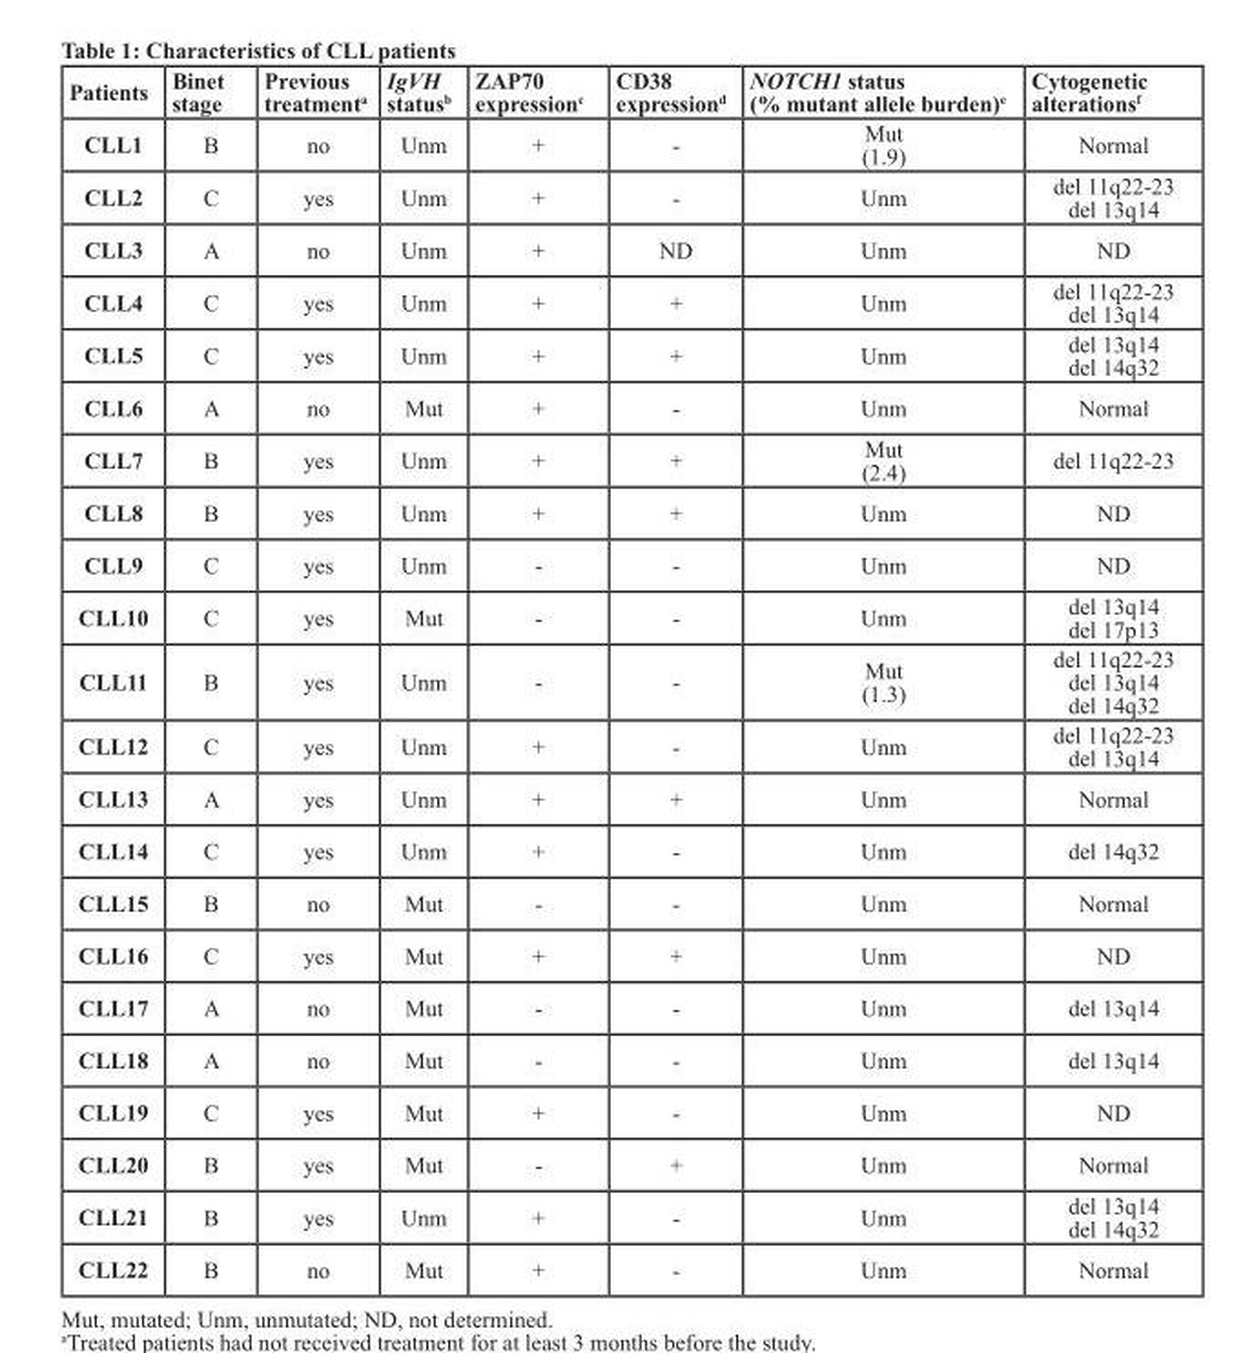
<table><thead><tr><td>Patients</td><td>Binet stage</td><td>Previous treatment<sup>a</sup></td><td>IgVH status<sup>b</sup></td><td>ZAP70 expression<sup>c</sup></td><td>CD38 expression<sup>d</sup></td><td>NOTCH1 status (% mutant allele burden)<sup>e</sup></td><td>Cytogenetic alterations<sup>f</sup></td></tr></thead><tbody><tr><td>CLL1</td><td>B</td><td>no</td><td>Unm</td><td>+</td><td>-</td><td>Mut (1.9)</td><td>Normal</td></tr><tr><td>CLL2</td><td>C</td><td>yes</td><td>Unm</td><td>+</td><td>-</td><td>Unm</td><td>del 11q22-23 del 13q14</td></tr><tr><td>CLL3</td><td>A</td><td>no</td><td>Unm</td><td>+</td><td>ND</td><td>Unm</td><td>ND</td></tr><tr><td>CLL4</td><td>C</td><td>yes</td><td>Unm</td><td>+</td><td>+</td><td>Unm</td><td>del 11q22-23 del 13q14</td></tr><tr><td>CLL5</td><td>C</td><td>yes</td><td>Unm</td><td>+</td><td>+</td><td>Unm</td><td>del 13q14 del 14q32</td></tr><tr><td>CLL6</td><td>A</td><td>no</td><td>Mut</td><td>+</td><td>-</td><td>Unm</td><td>Normal</td></tr><tr><td>CLL7</td><td>B</td><td>yes</td><td>Unm</td><td>+</td><td>+</td><td>Mut (2.4)</td><td>del 11q22-23</td></tr><tr><td>CLL8</td><td>B</td><td>yes</td><td>Unm</td><td>+</td><td>+</td><td>Unm</td><td>ND</td></tr><tr><td>CLL9</td><td>C</td><td>yes</td><td>Unm</td><td>-</td><td>-</td><td>Unm</td><td>ND</td></tr><tr><td>CLL10</td><td>C</td><td>yes</td><td>Mut</td><td>-</td><td>-</td><td>Unm</td><td>del 13q14 del 17p13</td></tr><tr><td>CLL11</td><td>B</td><td>yes</td><td>Unm</td><td>-</td><td>-</td><td>Mut (1.3)</td><td>del 11q22-23 del 13q14 del 14q32</td></tr><tr><td>CLL12</td><td>C</td><td>yes</td><td>Unm</td><td>+</td><td>-</td><td>Unm</td><td>del 11q22-23 del 13q14</td></tr><tr><td>CLL13</td><td>A</td><td>yes</td><td>Unm</td><td>+</td><td>+</td><td>Unm</td><td>Normal</td></tr><tr><td>CLL14</td><td>C</td><td>yes</td><td>Unm</td><td>+</td><td>-</td><td>Unm</td><td>del 14q32</td></tr><tr><td>CLL15</td><td>B</td><td>no</td><td>Mut</td><td>-</td><td>-</td><td>Unm</td><td>Normal</td></tr><tr><td>CLL16</td><td>C</td><td>yes</td><td>Mut</td><td>+</td><td>+</td><td>Unm</td><td>ND</td></tr><tr><td>CLL17</td><td>A</td><td>no</td><td>Mut</td><td>-</td><td>-</td><td>Unm</td><td>del 13q14</td></tr><tr><td>CLL18</td><td>A</td><td>no</td><td>Mut</td><td>-</td><td>-</td><td>Unm</td><td>del 13q14</td></tr><tr><td>CLL19</td><td>C</td><td>yes</td><td>Mut</td><td>+</td><td>-</td><td>Unm</td><td>ND</td></tr><tr><td>CLL20</td><td>B</td><td>yes</td><td>Mut</td><td>-</td><td>+</td><td>Unm</td><td>Normal</td></tr><tr><td>CLL21</td><td>B</td><td>yes</td><td>Unm</td><td>+</td><td>-</td><td>Unm</td><td>del 13q14 del 14q32</td></tr><tr><td>CLL22</td><td>B</td><td>no</td><td>Mut</td><td>+</td><td>-</td><td>Unm</td><td>Normal</td></tr></tbody></table>